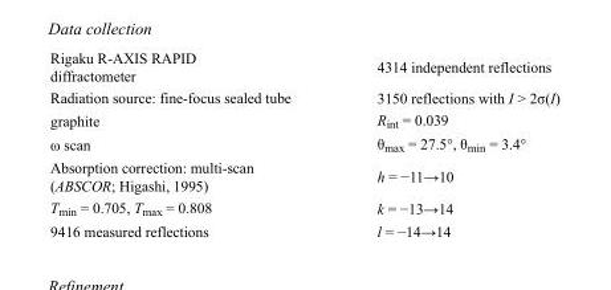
<table><tbody><tr><td>Rigaku R-AXIS RAPID diffractometer</td><td>4314 independent reflections</td></tr><tr><td>Radiation source: fine-focus sealed tube</td><td>3150 reflections with I &gt; 2σ(I)</td></tr><tr><td>graphite</td><td>R<sub>int</sub> = 0.039</td></tr><tr><td>ω scan</td><td>θ<sub>max</sub> = 27.5°, θ<sub>min</sub> = 3.4°</td></tr><tr><td>Absorption correction: multi-scan (ABSCOR; Higashi, 1995)</td><td>h = −11→10</td></tr><tr><td>T<sub>min</sub> = 0.705, T<sub>max</sub> = 0.808</td><td>k = −13→14</td></tr><tr><td>9416 measured reflections</td><td>l = −14→14</td></tr></tbody></table>